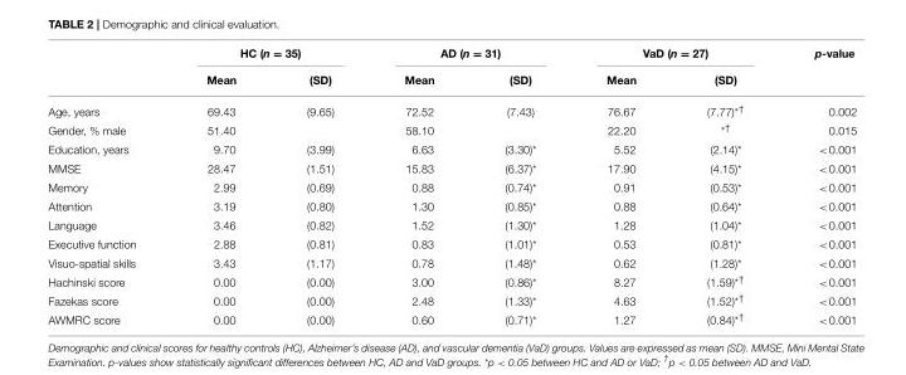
<table><thead><tr><td rowspan="2"></td><td colspan="2">HC (n = 35)</td><td colspan="2">AD (n = 31)</td><td colspan="2">VaD (n = 27)</td><td rowspan="2">p-value</td></tr><tr><td>Mean</td><td>(SD)</td><td>Mean</td><td>(SD)</td><td>Mean</td><td>(SD)</td></tr></thead><tbody><tr><td>Age, years</td><td>69.43</td><td>(9.65)</td><td>72.52</td><td>(7.43)</td><td>76.67</td><td>(7.77)<sup>*†</sup></td><td>0.002</td></tr><tr><td>Gender, % male</td><td>51.40</td><td></td><td>58.10</td><td></td><td>22.20</td><td><sup>*†</sup></td><td>0.015</td></tr><tr><td>Education, years</td><td>9.70</td><td>(3.99)</td><td>6.63</td><td>(3.30)*</td><td>5.52</td><td>(2.14)*</td><td>&lt;0.001</td></tr><tr><td>MMSE</td><td>28.47</td><td>(1.51)</td><td>15.83</td><td>(6.37)*</td><td>17.90</td><td>(4.15)*</td><td>&lt;0.001</td></tr><tr><td>Memory</td><td>2.99</td><td>(0.69)</td><td>0.88</td><td>(0.74)*</td><td>0.91</td><td>(0.53)*</td><td>&lt;0.001</td></tr><tr><td>Attention</td><td>3.19</td><td>(0.80)</td><td>1.30</td><td>(0.85)*</td><td>0.88</td><td>(0.64)*</td><td>&lt;0.001</td></tr><tr><td>Language</td><td>3.46</td><td>(0.82)</td><td>1.52</td><td>(1.30)*</td><td>1.28</td><td>(1.04)*</td><td>&lt;0.001</td></tr><tr><td>Executive function</td><td>2.88</td><td>(0.81)</td><td>0.83</td><td>(1.01)*</td><td>0.53</td><td>(0.81)*</td><td>&lt;0.001</td></tr><tr><td>Visuo-spatial skills</td><td>3.43</td><td>(1.17)</td><td>0.78</td><td>(1.48)*</td><td>0.62</td><td>(1.28)*</td><td>&lt;0.001</td></tr><tr><td>Hachinski score</td><td>0.00</td><td>(0.00)</td><td>3.00</td><td>(0.86)*</td><td>8.27</td><td>(1.59)<sup>*†</sup></td><td>&lt;0.001</td></tr><tr><td>Fazekas score</td><td>0.00</td><td>(0.00)</td><td>2.48</td><td>(1.33)*</td><td>4.63</td><td>(1.52)<sup>*†</sup></td><td>&lt;0.001</td></tr><tr><td>AWMRC score</td><td>0.00</td><td>(0.00)</td><td>0.60</td><td>(0.71)*</td><td>1.27</td><td>(0.84)<sup>*†</sup></td><td>&lt;0.001</td></tr></tbody></table>